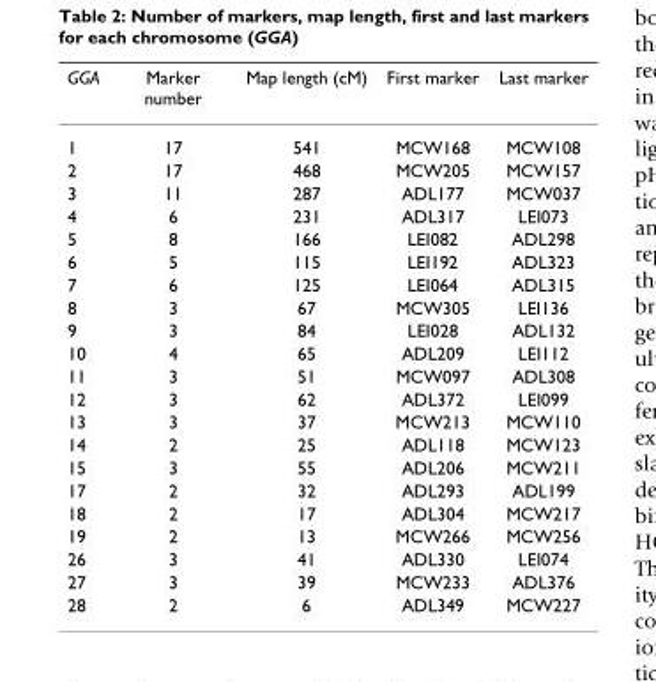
<table><thead><tr><td>GGA</td><td>Marker number</td><td>Map length (cM)</td><td>First marker</td><td>Last marker</td></tr></thead><tbody><tr><td>1</td><td>17</td><td>541</td><td>MCW168</td><td>MCW108</td></tr><tr><td>2</td><td>17</td><td>468</td><td>MCW205</td><td>MCW157</td></tr><tr><td>3</td><td>11</td><td>287</td><td>ADL177</td><td>MCW037</td></tr><tr><td>4</td><td>6</td><td>231</td><td>ADL317</td><td>LEI073</td></tr><tr><td>5</td><td>8</td><td>166</td><td>LEI082</td><td>ADL298</td></tr><tr><td>6</td><td>5</td><td>115</td><td>LEI192</td><td>ADL323</td></tr><tr><td>7</td><td>6</td><td>125</td><td>LEI064</td><td>ADL315</td></tr><tr><td>8</td><td>3</td><td>67</td><td>MCW305</td><td>LEI136</td></tr><tr><td>9</td><td>3</td><td>84</td><td>LEI028</td><td>ADL132</td></tr><tr><td>10</td><td>4</td><td>65</td><td>ADL209</td><td>LEI112</td></tr><tr><td>11</td><td>3</td><td>51</td><td>MCW097</td><td>ADL308</td></tr><tr><td>12</td><td>3</td><td>62</td><td>ADL372</td><td>LEI099</td></tr><tr><td>13</td><td>3</td><td>37</td><td>MCW213</td><td>MCW110</td></tr><tr><td>14</td><td>2</td><td>25</td><td>ADL118</td><td>MCW123</td></tr><tr><td>15</td><td>3</td><td>55</td><td>ADL206</td><td>MCW211</td></tr><tr><td>17</td><td>2</td><td>32</td><td>ADL293</td><td>ADL199</td></tr><tr><td>18</td><td>2</td><td>17</td><td>ADL304</td><td>MCW217</td></tr><tr><td>19</td><td>2</td><td>13</td><td>MCW266</td><td>MCW256</td></tr><tr><td>26</td><td>3</td><td>41</td><td>ADL330</td><td>LEI074</td></tr><tr><td>27</td><td>3</td><td>39</td><td>MCW233</td><td>ADL376</td></tr><tr><td>28</td><td>2</td><td>6</td><td>ADL349</td><td>MCW227</td></tr></tbody></table>